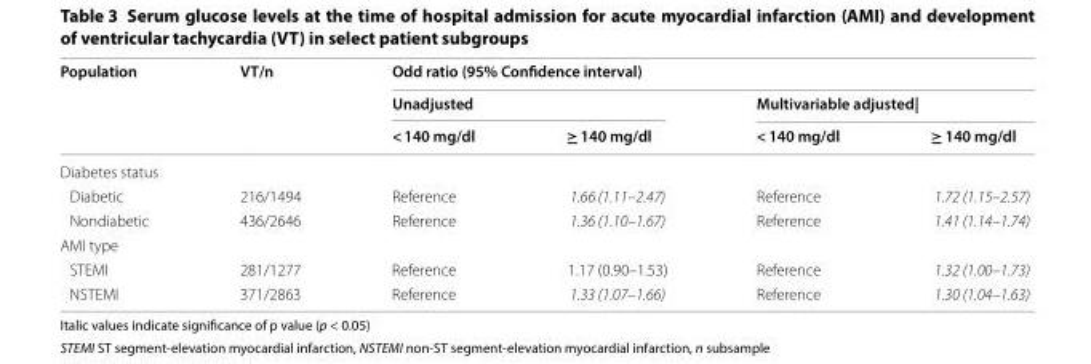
<table><thead><tr><td rowspan="3">Population</td><td rowspan="3">VT/n</td><td colspan="4">Odd ratio (95% Confidence interval)</td></tr><tr><td colspan="2">Unadjusted</td><td colspan="2">Multivariable adjusted|</td></tr><tr><td>&lt; 140 mg/dl</td><td>≥ 140 mg/dl</td><td>&lt; 140 mg/dl</td><td>≥ 140 mg/dl</td></tr></thead><tbody><tr><td colspan="6">Diabetes status</td></tr><tr><td>Diabetic</td><td>216/1494</td><td>Reference</td><td>1.66 (1.11–2.47)</td><td>Reference</td><td>1.72 (1.15–2.57)</td></tr><tr><td>Nondiabetic</td><td>436/2646</td><td>Reference</td><td>1.36 (1.10–1.67)</td><td>Reference</td><td>1.41 (1.14–1.74)</td></tr><tr><td colspan="6">AMI type</td></tr><tr><td>STEMI</td><td>281/1277</td><td>Reference</td><td>1.17 (0.90–1.53)</td><td>Reference</td><td>1.32 (1.00–1.73)</td></tr><tr><td>NSTEMI</td><td>371/2863</td><td>Reference</td><td>1.33 (1.07–1.66)</td><td>Reference</td><td>1.30 (1.04–1.63)</td></tr></tbody></table>